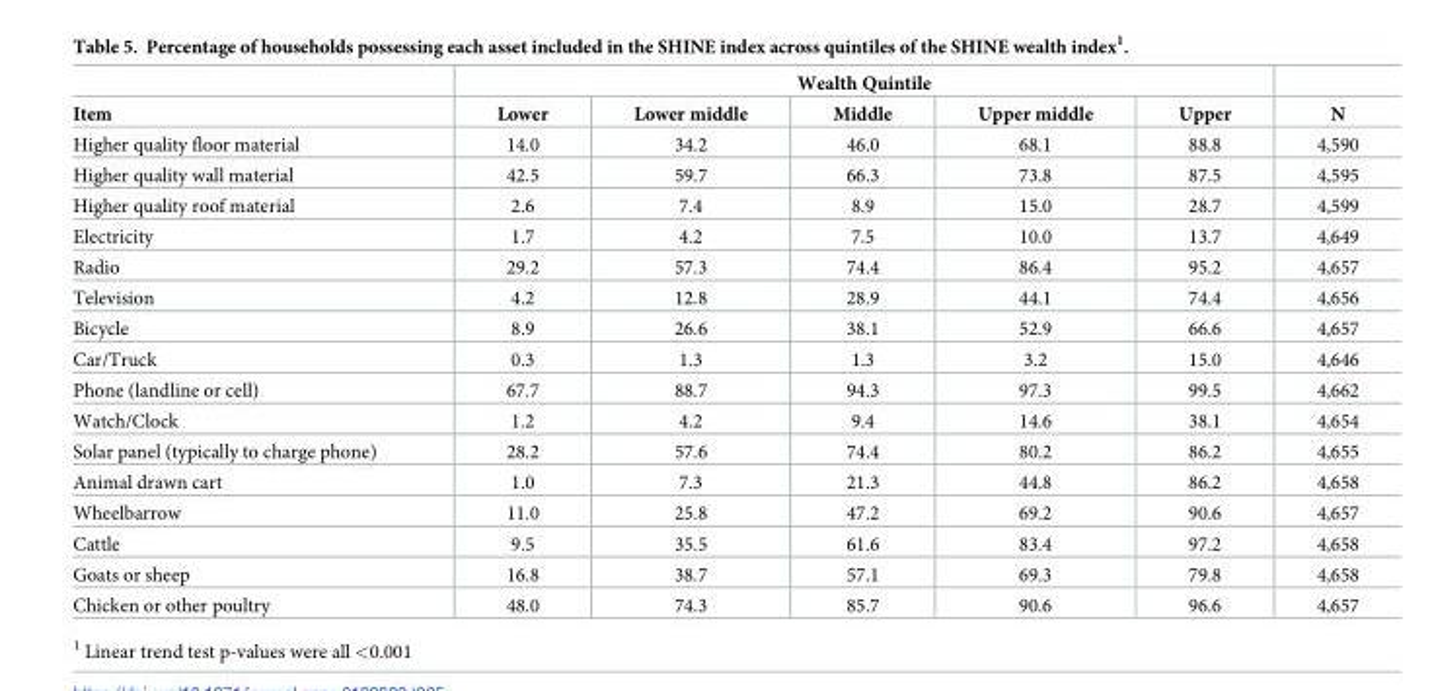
<table><thead><tr><td rowspan="2">Item</td><td colspan="5">Wealth Quintile</td><td rowspan="2">N</td></tr><tr><td>Lower</td><td>Lower middle</td><td>Middle</td><td>Upper middle</td><td>Upper</td></tr></thead><tbody><tr><td>Higher quality floor material</td><td>14.0</td><td>34.2</td><td>46.0</td><td>68.1</td><td>88.8</td><td>4,590</td></tr><tr><td>Higher quality wall material</td><td>42.5</td><td>59.7</td><td>66.3</td><td>73.8</td><td>87.5</td><td>4,595</td></tr><tr><td>Higher quality roof material</td><td>2.6</td><td>7.4</td><td>8.9</td><td>15.0</td><td>28.7</td><td>4,599</td></tr><tr><td>Electricity</td><td>1.7</td><td>4.2</td><td>7.5</td><td>10.0</td><td>13.7</td><td>4,649</td></tr><tr><td>Radio</td><td>29.2</td><td>57.3</td><td>74.4</td><td>86.4</td><td>95.2</td><td>4,657</td></tr><tr><td>Television</td><td>4.2</td><td>12.8</td><td>28.9</td><td>44.1</td><td>74.4</td><td>4,656</td></tr><tr><td>Bicycle</td><td>8.9</td><td>26.6</td><td>38.1</td><td>52.9</td><td>66.6</td><td>4,657</td></tr><tr><td>Car/Truck</td><td>0.3</td><td>1.3</td><td>1.3</td><td>3.2</td><td>15.0</td><td>4,646</td></tr><tr><td>Phone (landline or cell)</td><td>67.7</td><td>88.7</td><td>94.3</td><td>97.3</td><td>99.5</td><td>4,662</td></tr><tr><td>Watch/Clock</td><td>1.2</td><td>4.2</td><td>9.4</td><td>14.6</td><td>38.1</td><td>4,654</td></tr><tr><td>Solar panel (typically to charge phone)</td><td>28.2</td><td>57.6</td><td>74.4</td><td>80.2</td><td>86.2</td><td>4,655</td></tr><tr><td>Animal drawn cart</td><td>1.0</td><td>7.3</td><td>21.3</td><td>44.8</td><td>86.2</td><td>4,658</td></tr><tr><td>Wheelbarrow</td><td>11.0</td><td>25.8</td><td>47.2</td><td>69.2</td><td>90.6</td><td>4,657</td></tr><tr><td>Cattle</td><td>9.5</td><td>35.5</td><td>61.6</td><td>83.4</td><td>97.2</td><td>4,658</td></tr><tr><td>Goats or sheep</td><td>16.8</td><td>38.7</td><td>57.1</td><td>69.3</td><td>79.8</td><td>4,658</td></tr><tr><td>Chicken or other poultry</td><td>48.0</td><td>74.3</td><td>85.7</td><td>90.6</td><td>96.6</td><td>4,657</td></tr></tbody></table>